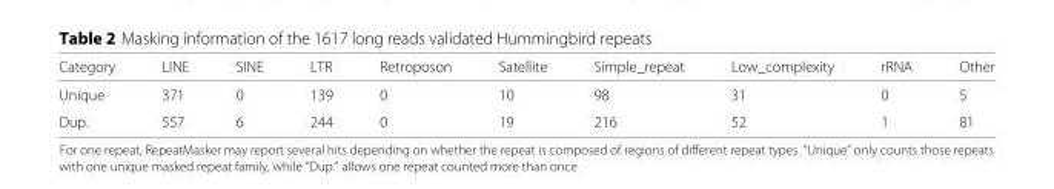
<table><thead><tr><td>Category</td><td>LINE</td><td>SINE</td><td>LTR</td><td>Retroposon</td><td>Satellite</td><td>Simple_repeat</td><td>Low_complexity</td><td>rRNA</td><td>Other</td></tr></thead><tbody><tr><td>Unique</td><td>371</td><td>0</td><td>139</td><td>0</td><td>10</td><td>98</td><td>31</td><td>0</td><td>5</td></tr><tr><td>Dup.</td><td>557</td><td>6</td><td>244</td><td>0</td><td>19</td><td>216</td><td>52</td><td>1</td><td>81</td></tr></tbody></table>